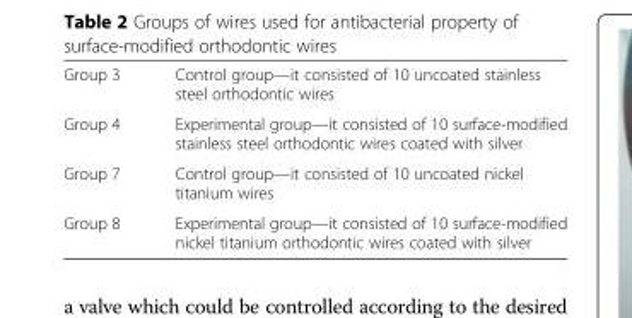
<table><tbody><tr><td>Group 3</td><td>Control group—it consisted of 10 uncoated stainless steel orthodontic wires</td></tr><tr><td>Group 4</td><td>Experimental group—it consisted of 10 surface-modified stainless steel orthodontic wires coated with silver</td></tr><tr><td>Group 7</td><td>Control group—it consisted of 10 uncoated nickel titanium wires</td></tr><tr><td>Group 8</td><td>Experimental group—it consisted of 10 surface-modified nickel titanium orthodontic wires coated with silver</td></tr></tbody></table>